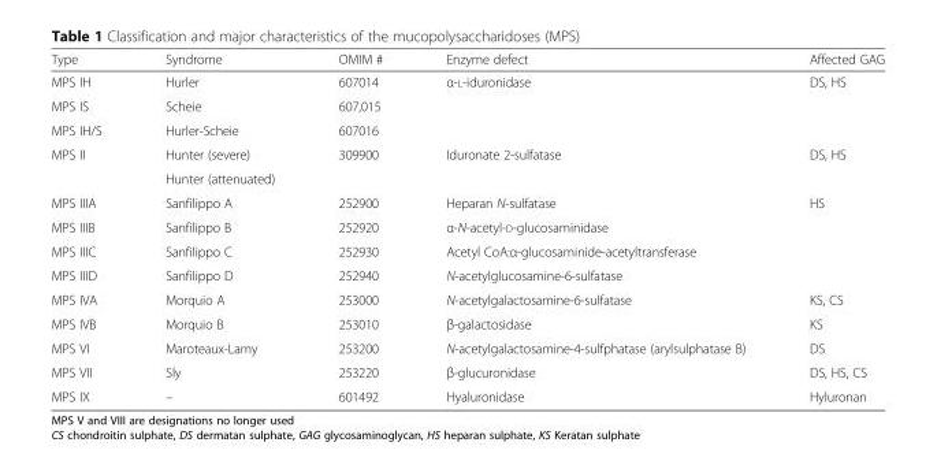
<table><thead><tr><td>Type</td><td>Syndrome</td><td>OMIM #</td><td>Enzyme defect</td><td>Affected GAG</td></tr></thead><tbody><tr><td>MPS IH</td><td>Hurler</td><td>607014</td><td rowspan="3">α-L-iduronidase</td><td rowspan="3">DS, HS</td></tr><tr><td>MPS IS</td><td>Scheie</td><td>607,015</td></tr><tr><td>MPS IH/S</td><td>Hurler-Scheie</td><td>607016</td></tr><tr><td rowspan="2">MPS II</td><td>Hunter (severe)</td><td rowspan="2">309900</td><td rowspan="2">Iduronate 2-sulfatase</td><td rowspan="2">DS, HS</td></tr><tr><td>Hunter (attenuated)</td></tr><tr><td>MPS IIIA</td><td>Sanfilippo A</td><td>252900</td><td>Heparan N-sulfatase</td><td rowspan="4">HS</td></tr><tr><td>MPS IIIB</td><td>Sanfilippo B</td><td>252920</td><td>α-N-acetyl-D-glucosaminidase</td></tr><tr><td>MPS IIIC</td><td>Sanfilippo C</td><td>252930</td><td>Acetyl CoA:α-glucosaminide-acetyltransferase</td></tr><tr><td>MPS IIID</td><td>Sanfilippo D</td><td>252940</td><td>N-acetylglucosamine-6-sulfatase</td></tr><tr><td>MPS IVA</td><td>Morquio A</td><td>253000</td><td>N-acetylgalactosamine-6-sulfatase</td><td>KS, CS</td></tr><tr><td>MPS IVB</td><td>Morquio B</td><td>253010</td><td>β-galactosidase</td><td>KS</td></tr><tr><td>MPS VI</td><td>Maroteaux-Lamy</td><td>253200</td><td>N-acetylgalactosamine-4-sulfphatase (arylsulphatase B)</td><td>DS</td></tr><tr><td>MPS VII</td><td>Sly</td><td>253220</td><td>β-glucuronidase</td><td>DS, HS, CS</td></tr><tr><td>MPS IX</td><td>–</td><td>601492</td><td>Hyaluronidase</td><td>Hyluronan</td></tr></tbody></table>